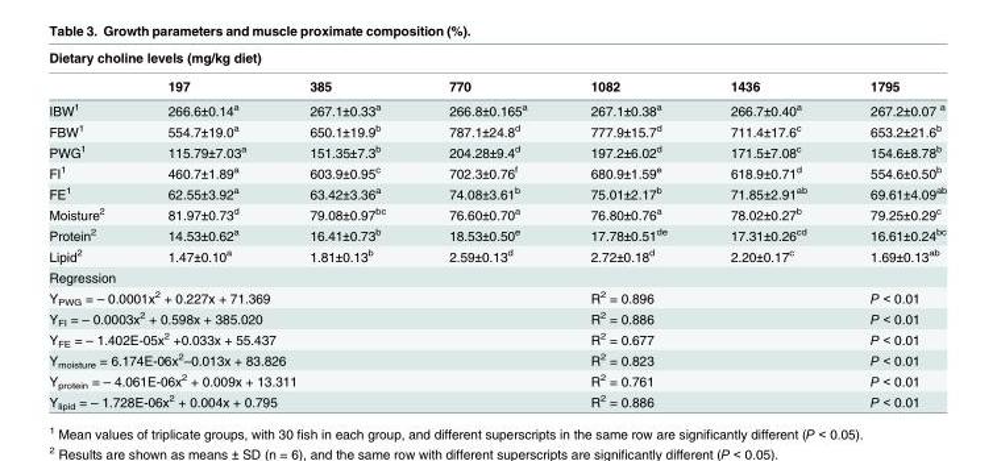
<table><thead><tr><td colspan="7">Dietary choline levels (mg/kg diet)</td></tr><tr><td></td><td>197</td><td>385</td><td>770</td><td>1082</td><td>1436</td><td>1795</td></tr></thead><tbody><tr><td>IBW<sup>1</sup></td><td>266.6±0.14<sup>a</sup></td><td>267.1±0.33<sup>a</sup></td><td>266.8±0.165<sup>a</sup></td><td>267.1±0.38<sup>a</sup></td><td>266.7±0.40<sup>a</sup></td><td>267.2±0.07 <sup>a</sup></td></tr><tr><td>FBW<sup>1</sup></td><td>554.7±19.0<sup>a</sup></td><td>650.1±19.9<sup>b</sup></td><td>787.1±24.8<sup>d</sup></td><td>777.9±15.7<sup>d</sup></td><td>711.4±17.6<sup>c</sup></td><td>653.2±21.6<sup>b</sup></td></tr><tr><td>PWG<sup>1</sup></td><td>115.79±7.03<sup>a</sup></td><td>151.35±7.3<sup>b</sup></td><td>204.28±9.4<sup>d</sup></td><td>197.2±6.02<sup>d</sup></td><td>171.5±7.08<sup>c</sup></td><td>154.6±8.78<sup>b</sup></td></tr><tr><td>FI<sup>1</sup></td><td>460.7±1.89<sup>a</sup></td><td>603.9±0.95<sup>c</sup></td><td>702.3±0.76<sup>f</sup></td><td>680.9±1.59<sup>e</sup></td><td>618.9±0.71<sup>d</sup></td><td>554.6±0.50<sup>b</sup></td></tr><tr><td>FE<sup>1</sup></td><td>62.55±3.92<sup>a</sup></td><td>63.42±3.36<sup>a</sup></td><td>74.08±3.61<sup>b</sup></td><td>75.01±2.17<sup>b</sup></td><td>71.85±2.91<sup>ab</sup></td><td>69.61±4.09<sup>ab</sup></td></tr><tr><td>Moisture<sup>2</sup></td><td>81.97±0.73<sup>d</sup></td><td>79.08±0.97<sup>bc</sup></td><td>76.60±0.70<sup>a</sup></td><td>76.80±0.76<sup>a</sup></td><td>78.02±0.27<sup>b</sup></td><td>79.25±0.29<sup>c</sup></td></tr><tr><td>Protein<sup>2</sup></td><td>14.53±0.62<sup>a</sup></td><td>16.41±0.73<sup>b</sup></td><td>18.53±0.50<sup>e</sup></td><td>17.78±0.51<sup>de</sup></td><td>17.31±0.26<sup>cd</sup></td><td>16.61±0.24<sup>bc</sup></td></tr><tr><td>Lipid<sup>2</sup></td><td>1.47±0.10<sup>a</sup></td><td>1.81±0.13<sup>b</sup></td><td>2.59±0.13<sup>d</sup></td><td>2.72±0.18<sup>d</sup></td><td>2.20±0.17<sup>c</sup></td><td>1.69±0.13<sup>ab</sup></td></tr><tr><td colspan="7">Regression</td></tr><tr><td colspan="4">Y<sub>PWG</sub> = – 0.0001x<sup>2</sup> + 0.227x + 71.369</td><td colspan="2">R<sup>2</sup> = 0.896</td><td>P &lt; 0.01</td></tr><tr><td colspan="4">Y<sub>FI</sub> = – 0.0003x<sup>2</sup> + 0.598x + 385.020</td><td colspan="2">R<sup>2</sup> = 0.886</td><td>P &lt; 0.01</td></tr><tr><td colspan="4">Y<sub>FE</sub> = – 1.402E-05x<sup>2</sup> +0.033x + 55.437</td><td colspan="2">R<sup>2</sup> = 0.677</td><td>P &lt; 0.01</td></tr><tr><td colspan="4">Y<sub>moisture</sub> = 6.174E-06x<sup>2</sup>–0.013x + 83.826</td><td colspan="2">R<sup>2</sup> = 0.823</td><td>P &lt; 0.01</td></tr><tr><td colspan="4">Y<sub>protein</sub> = – 4.061E-06x<sup>2</sup> + 0.009x + 13.311</td><td colspan="2">R<sup>2</sup> = 0.761</td><td>P &lt; 0.01</td></tr><tr><td colspan="4">Y<sub>lipid</sub> = – 1.728E-06x<sup>2</sup> + 0.004x + 0.795</td><td colspan="2">R<sup>2</sup> = 0.886</td><td>P &lt; 0.01</td></tr></tbody></table>